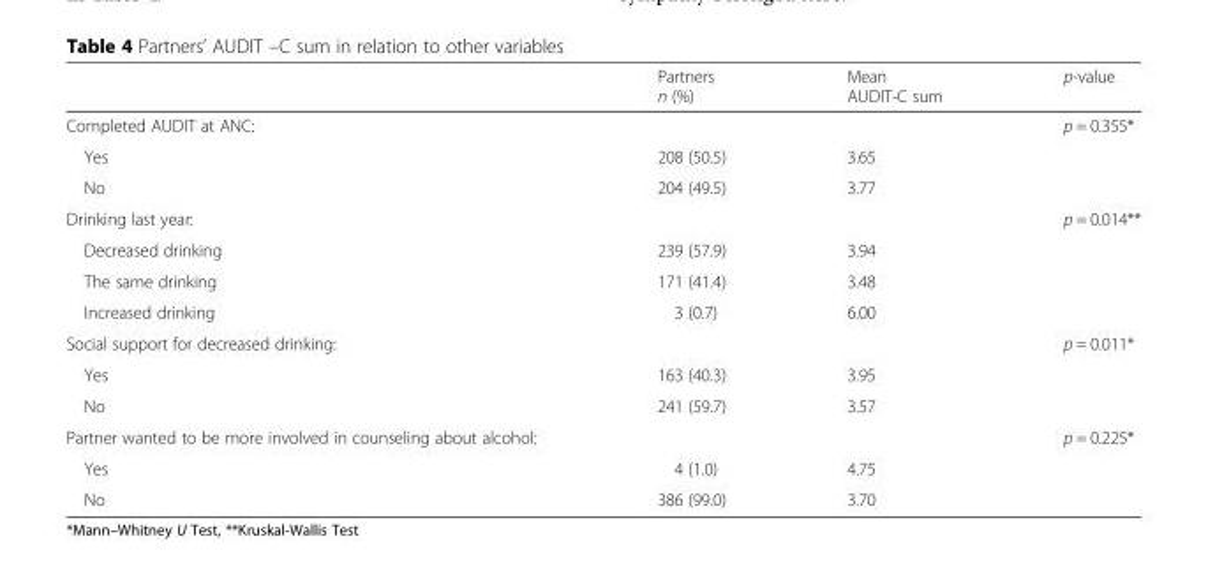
<table><thead><tr><td></td><td>Partners n (%)</td><td>Mean AUDIT-C sum</td><td>p-value</td></tr></thead><tbody><tr><td colspan="3">Completed AUDIT at ANC:</td><td rowspan="3">p = 0.355*</td></tr><tr><td>Yes</td><td>208 (50.5)</td><td>3.65</td></tr><tr><td>No</td><td>204 (49.5)</td><td>3.77</td></tr><tr><td colspan="3">Drinking last year:</td><td rowspan="4">p = 0.014**</td></tr><tr><td>Decreased drinking</td><td>239 (57.9)</td><td>3.94</td></tr><tr><td>The same drinking</td><td>171 (41.4)</td><td>3.48</td></tr><tr><td>Increased drinking</td><td>3 (0.7)</td><td>6.00</td></tr><tr><td colspan="3">Social support for decreased drinking:</td><td rowspan="3">p = 0.011*</td></tr><tr><td>Yes</td><td>163 (40.3)</td><td>3.95</td></tr><tr><td>No</td><td>241 (59.7)</td><td>3.57</td></tr><tr><td colspan="3">Partner wanted to be more involved in counseling about alcohol:</td><td rowspan="3">p = 0.225*</td></tr><tr><td>Yes</td><td>4 (1.0)</td><td>4.75</td></tr><tr><td>No</td><td>386 (99.0)</td><td>3.70</td></tr></tbody></table>